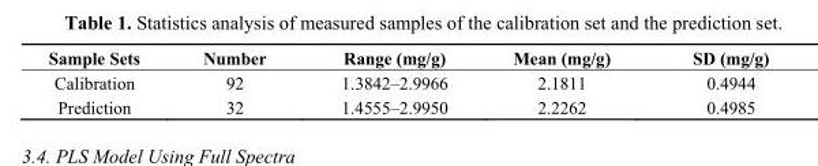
<table><thead><tr><td>Sample Sets</td><td>Number</td><td>Range (mg/g)</td><td>Mean (mg/g)</td><td>SD (mg/g)</td></tr></thead><tbody><tr><td>Calibration</td><td>92</td><td>1.3842–2.9966</td><td>2.1811</td><td>0.4944</td></tr><tr><td>Prediction</td><td>32</td><td>1.4555–2.9950</td><td>2.2262</td><td>0.4985</td></tr></tbody></table>